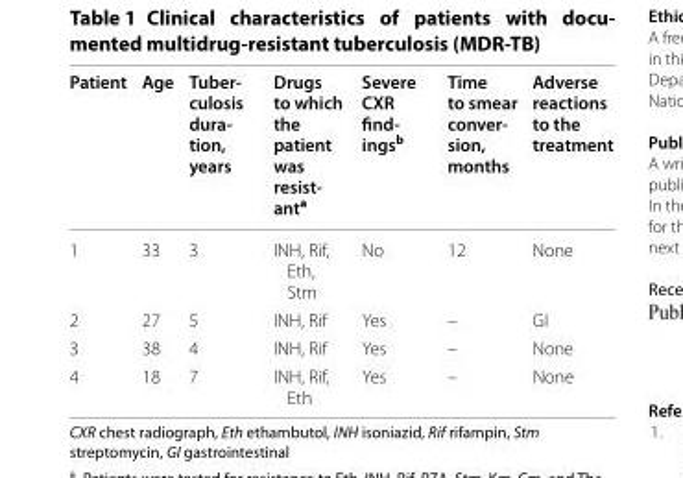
<table><thead><tr><td>Patient</td><td>Age</td><td>Tuber- culosis dura- tion, years</td><td>Drugs to which the patient was resist- anta</td><td>Severe CXR find- ingsb</td><td>Time to smear conver- sion, months</td><td>Adverse reactions to the treatment</td></tr></thead><tbody><tr><td>1</td><td>33</td><td>3</td><td>INH, Rif, Eth, Stm</td><td>No</td><td>12</td><td>None</td></tr><tr><td>2</td><td>27</td><td>5</td><td>INH, Rif</td><td>Yes</td><td>–</td><td>GI</td></tr><tr><td>3</td><td>38</td><td>4</td><td>INH, Rif</td><td>Yes</td><td>–</td><td>None</td></tr><tr><td>4</td><td>18</td><td>7</td><td>INH, Rif, Eth</td><td>Yes</td><td>–</td><td>None</td></tr></tbody></table>